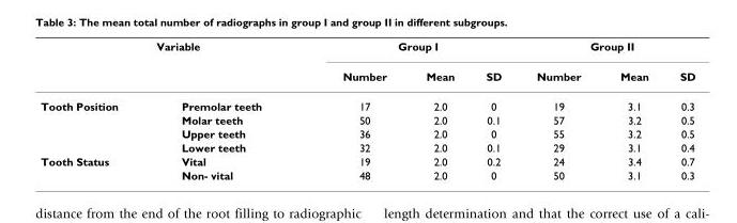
<table><thead><tr><td colspan="2">Variable</td><td colspan="3">Group I</td><td colspan="3">Group II</td></tr><tr><td></td><td></td><td>Number</td><td>Mean</td><td>SD</td><td>Number</td><td>Mean</td><td>SD</td></tr></thead><tbody><tr><td rowspan="4">Tooth Position</td><td>Premolar teeth</td><td>17</td><td>2.0</td><td>0</td><td>19</td><td>3.1</td><td>0.3</td></tr><tr><td>Molar teeth</td><td>50</td><td>2.0</td><td>0.1</td><td>57</td><td>3.2</td><td>0.5</td></tr><tr><td>Upper teeth</td><td>36</td><td>2.0</td><td>0</td><td>55</td><td>3.2</td><td>0.5</td></tr><tr><td>Lower teeth</td><td>32</td><td>2.0</td><td>0.1</td><td>29</td><td>3.1</td><td>0.4</td></tr><tr><td rowspan="2">Tooth Status</td><td>Vital</td><td>19</td><td>2.0</td><td>0.2</td><td>24</td><td>3.4</td><td>0.7</td></tr><tr><td>Non- vital</td><td>48</td><td>2.0</td><td>0</td><td>50</td><td>3.1</td><td>0.3</td></tr></tbody></table>